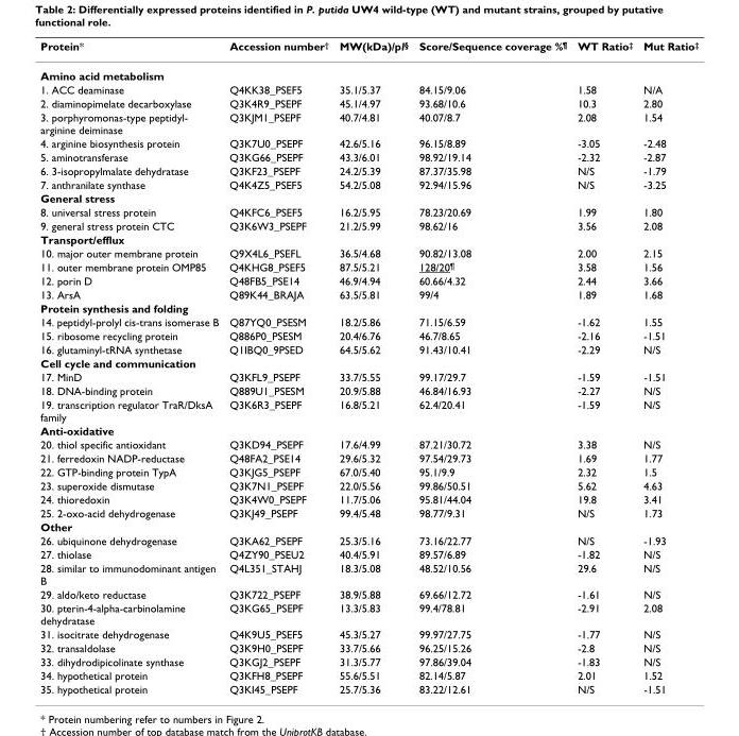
<table><thead><tr><td>Protein*</td><td>Accession number<sup>†</sup></td><td>MW(kDa)/pI<sup>§</sup></td><td>Score/Sequence coverage %<sup>¶</sup></td><td>WT Ratio<sup>‡</sup></td><td>Mut Ratio<sup>‡</sup></td></tr></thead><tbody><tr><td colspan="6">Amino acid metabolism</td></tr><tr><td>1. ACC deaminase</td><td>Q4KK38_PSEF5</td><td>35.1/5.37</td><td>84.15/9.06</td><td>1.58</td><td>N/A</td></tr><tr><td>2. diaminopimelate decarboxylase</td><td>Q3K4R9_PSEPF</td><td>45.1/4.97</td><td>93.68/10.6</td><td>10.3</td><td>2.80</td></tr><tr><td>3. porphyromonas-type peptidyl- arginine deiminase</td><td>Q3KJM1_PSEPF</td><td>40.7/4.81</td><td>40.07/8.7</td><td>2.08</td><td>1.54</td></tr><tr><td>4. arginine biosynthesis protein</td><td>Q3K7U0_PSEPF</td><td>42.6/5.16</td><td>96.15/8.89</td><td>-3.05</td><td>-2.48</td></tr><tr><td>5. aminotransferase</td><td>Q3KG66_PSEPF</td><td>43.3/6.01</td><td>98.92/19.14</td><td>-2.32</td><td>-2.87</td></tr><tr><td>6. 3-isopropylmalate dehydratase</td><td>Q3KF23_PSEPF</td><td>24.2/5.39</td><td>87.37/35.98</td><td>N/S</td><td>-1.79</td></tr><tr><td>7. anthranilate synthase</td><td>Q4K4Z5_PSEF5</td><td>54.2/5.08</td><td>92.94/15.96</td><td>N/S</td><td>-3.25</td></tr><tr><td colspan="6">General stress</td></tr><tr><td>8. universal stress protein</td><td>Q4KFC6_PSEF5</td><td>16.2/5.95</td><td>78.23/20.69</td><td>1.99</td><td>1.80</td></tr><tr><td>9. general stress protein CTC</td><td>Q3K6W3_PSEPF</td><td>21.2/5.99</td><td>98.62/16</td><td>3.56</td><td>2.08</td></tr><tr><td colspan="6">Transport/efflux</td></tr><tr><td>10. major outer membrane protein</td><td>Q9X4L6_PSEFL</td><td>36.5/4.68</td><td>90.82/13.08</td><td>2.00</td><td>2.15</td></tr><tr><td>11. outer membrane protein OMP85</td><td>Q4KHG8_PSEF5</td><td>87.5/5.21</td><td>128/20<sup>¶</sup></td><td>3.58</td><td>1.56</td></tr><tr><td>12. porin D</td><td>Q48FB5_PSE14</td><td>46.9/4.94</td><td>60.66/4.32</td><td>2.44</td><td>3.66</td></tr><tr><td>13. ArsA</td><td>Q89K44_BRAJA</td><td>63.5/5.81</td><td>99/4</td><td>1.89</td><td>1.68</td></tr><tr><td colspan="6">Protein synthesis and folding</td></tr><tr><td>14. peptidyl-prolyl cis-trans isomerase B</td><td>Q87YQ0_PSESM</td><td>18.2/5.86</td><td>71.15/6.59</td><td>-1.62</td><td>1.55</td></tr><tr><td>15. ribosome recycling protein</td><td>Q886P0_PSESM</td><td>20.4/6.76</td><td>46.7/8.65</td><td>-2.16</td><td>-1.51</td></tr><tr><td>16. glutaminyl-tRNA synthetase</td><td>Q1IBQ0_9PSED</td><td>64.5/5.62</td><td>91.43/10.41</td><td>-2.29</td><td>N/S</td></tr><tr><td colspan="6">Cell cycle and communication</td></tr><tr><td>17. MinD</td><td>Q3KFL9_PSEPF</td><td>33.7/5.55</td><td>99.17/29.7</td><td>-1.59</td><td>-1.51</td></tr><tr><td>18. DNA-binding protein</td><td>Q889U1_PSESM</td><td>20.9/5.88</td><td>46.84/16.93</td><td>-2.27</td><td>N/S</td></tr><tr><td>19. transcription regulator TraR/DksA family</td><td>Q3K6R3_PSEPF</td><td>16.8/5.21</td><td>62.4/20.41</td><td>-1.59</td><td>N/S</td></tr><tr><td colspan="6">Anti-oxidative</td></tr><tr><td>20. thiol specific antioxidant</td><td>Q3KD94_PSEPF</td><td>17.6/4.99</td><td>87.21/30.72</td><td>3.38</td><td>N/S</td></tr><tr><td>21. ferredoxin NADP-reductase</td><td>Q48FA2_PSE14</td><td>29.6/5.32</td><td>97.54/29.73</td><td>1.69</td><td>1.77</td></tr><tr><td>22. GTP-binding protein TypA</td><td>Q3KJG5_PSEPF</td><td>67.0/5.40</td><td>95.1/9.9</td><td>2.32</td><td>1.5</td></tr><tr><td>23. superoxide dismutase</td><td>Q3K7N1_PSEPF</td><td>22.0/5.56</td><td>99.86/50.51</td><td>5.62</td><td>4.63</td></tr><tr><td>24. thioredoxin</td><td>Q3K4W0_PSEPF</td><td>11.7/5.06</td><td>95.81/44.04</td><td>19.8</td><td>3.41</td></tr><tr><td>25. 2-oxo-acid dehydrogenase</td><td>Q3KJ49_PSEPF</td><td>99.4/5.48</td><td>98.77/9.31</td><td>N/S</td><td>1.73</td></tr><tr><td colspan="6">Other</td></tr><tr><td>26. ubiquinone dehydrogenase</td><td>Q3KA62_PSEPF</td><td>25.3/5.16</td><td>73.16/22.77</td><td>N/S</td><td>-1.93</td></tr><tr><td>27. thiolase</td><td>Q4ZY90_PSEU2</td><td>40.4/5.91</td><td>89.57/6.89</td><td>-1.82</td><td>N/S</td></tr><tr><td>28. similar to immunodominant antigen B</td><td>Q4L351_STAHJ</td><td>18.3/5.08</td><td>48.52/10.56</td><td>29.6</td><td>N/S</td></tr><tr><td>29. aldo/keto reductase</td><td>Q3K722_PSEPF</td><td>38.9/5.88</td><td>69.66/12.72</td><td>-1.61</td><td>N/S</td></tr><tr><td>30. pterin-4-alpha-carbinolamine dehydratase</td><td>Q3KG65_PSEPF</td><td>13.3/5.83</td><td>99.4/78.81</td><td>-2.91</td><td>2.08</td></tr><tr><td>31. isocitrate dehydrogenase</td><td>Q4K9U5_PSEF5</td><td>45.3/5.27</td><td>99.97/27.75</td><td>-1.77</td><td>N/S</td></tr><tr><td>32. transaldolase</td><td>Q3K9H0_PSEPF</td><td>33.7/5.66</td><td>96.25/15.26</td><td>-2.8</td><td>N/S</td></tr><tr><td>33. dihydrodipicolinate synthase</td><td>Q3KGJ2_PSEPF</td><td>31.3/5.77</td><td>97.86/39.04</td><td>-1.83</td><td>N/S</td></tr><tr><td>34. hypothetical protein</td><td>Q3KFH8_PSEPF</td><td>55.6/5.51</td><td>82.14/5.87</td><td>2.01</td><td>1.52</td></tr><tr><td>35. hypothetical protein</td><td>Q3KI45_PSEPF</td><td>25.7/5.36</td><td>83.22/12.61</td><td>N/S</td><td>-1.51</td></tr></tbody></table>